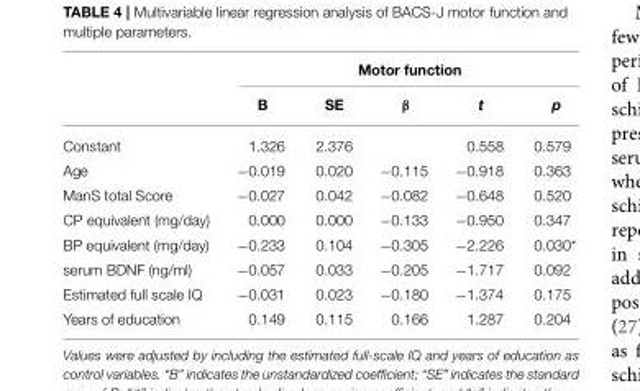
<table><thead><tr><td rowspan="2"></td><td colspan="5">Motor function</td></tr><tr><td>B</td><td>SE</td><td>β</td><td>t</td><td>p</td></tr></thead><tbody><tr><td>Constant</td><td>1.326</td><td>2.376</td><td></td><td>0.558</td><td>0.579</td></tr><tr><td>Age</td><td>−0.019</td><td>0.020</td><td>−0.115</td><td>−0.918</td><td>0.363</td></tr><tr><td>ManS total Score</td><td>−0.027</td><td>0.042</td><td>−0.082</td><td>−0.648</td><td>0.520</td></tr><tr><td>CP equivalent (mg/day)</td><td>0.000</td><td>0.000</td><td>−0.133</td><td>−0.950</td><td>0.347</td></tr><tr><td>BP equivalent (mg/day)</td><td>−0.233</td><td>0.104</td><td>−0.305</td><td>−2.226</td><td>0.030*</td></tr><tr><td>serum BDNF (ng/ml)</td><td>−0.057</td><td>0.033</td><td>−0.205</td><td>−1.717</td><td>0.092</td></tr><tr><td>Estimated full scale IQ</td><td>−0.031</td><td>0.023</td><td>−0.180</td><td>−1.374</td><td>0.175</td></tr><tr><td>Years of education</td><td>0.149</td><td>0.115</td><td>0.166</td><td>1.287</td><td>0.204</td></tr></tbody></table>